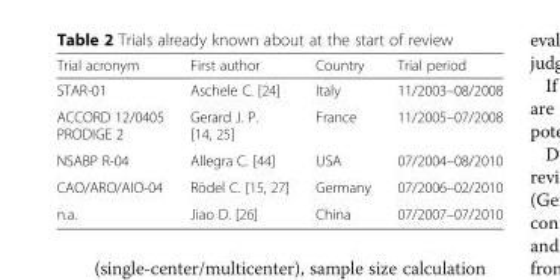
<table><thead><tr><td>Trial acronym</td><td>First author</td><td>Country</td><td>Trial period</td></tr></thead><tbody><tr><td>STAR-01</td><td>Aschele C. [24]</td><td>Italy</td><td>11/2003–08/2008</td></tr><tr><td>ACCORD 12/0405 PRODIGE 2</td><td>Gerard J. P. [14, 25]</td><td>France</td><td>11/2005–07/2008</td></tr><tr><td>NSABP R-04</td><td>Allegra C. [44]</td><td>USA</td><td>07/2004–08/2010</td></tr><tr><td>CAO/ARO/AIO-04</td><td>Rödel C. [15, 27]</td><td>Germany</td><td>07/2006–02/2010</td></tr><tr><td>n.a.</td><td>Jiao D. [26]</td><td>China</td><td>07/2007–07/2010</td></tr></tbody></table>